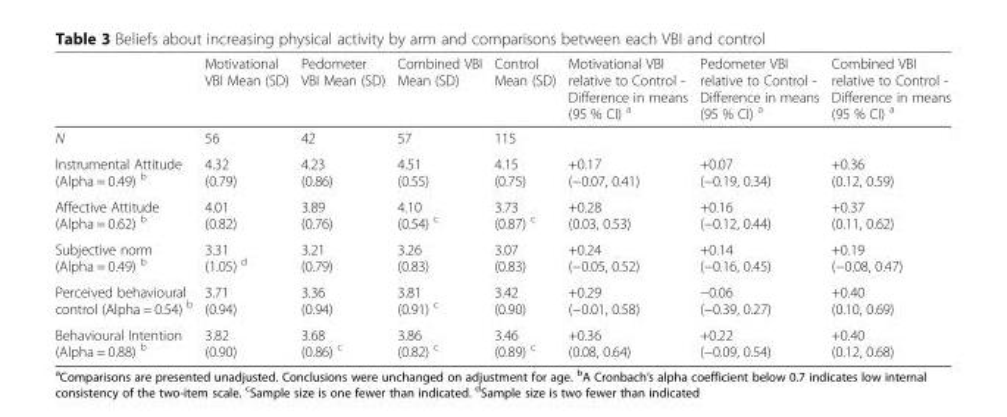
<table><thead><tr><td></td><td>Motivational VBI Mean (SD)</td><td>Pedometer VBI Mean (SD)</td><td>Combined VBI Mean (SD)</td><td>Control Mean (SD)</td><td>Motivational VBI relative to Control - Difference in means (95 % CI) <sup>a</sup></td><td>Pedometer VBI relative to Control - Difference in means (95 % CI) <sup>a</sup></td><td>Combined VBI relative to Control - Difference in means (95 % CI) <sup>a</sup></td></tr></thead><tbody><tr><td>N</td><td>56</td><td>42</td><td>57</td><td>115</td><td></td><td></td><td></td></tr><tr><td>Instrumental Attitude (Alpha = 0.49) <sup>b</sup></td><td>4.32 (0.79)</td><td>4.23 (0.86)</td><td>4.51 (0.55)</td><td>4.15 (0.75)</td><td>+0.17 (−0.07, 0.41)</td><td>+0.07 (−0.19, 0.34)</td><td>+0.36 (0.12, 0.59)</td></tr><tr><td>Affective Attitude (Alpha = 0.62) <sup>b</sup></td><td>4.01 (0.82)</td><td>3.89 (0.76)</td><td>4.10 (0.54) <sup>c</sup></td><td>3.73 (0.87) <sup>c</sup></td><td>+0.28 (0.03, 0.53)</td><td>+0.16 (−0.12, 0.44)</td><td>+0.37 (0.11, 0.62)</td></tr><tr><td>Subjective norm (Alpha = 0.49) <sup>b</sup></td><td>3.31 (1.05) <sup>d</sup></td><td>3.21 (0.79)</td><td>3.26 (0.83)</td><td>3.07 (0.83)</td><td>+0.24 (−0.05, 0.52)</td><td>+0.14 (−0.16, 0.45)</td><td>+0.19 (−0.08, 0.47)</td></tr><tr><td>Perceived behavioural control (Alpha = 0.54) <sup>b</sup></td><td>3.71 (0.94)</td><td>3.36 (0.94)</td><td>3.81 (0.91) <sup>c</sup></td><td>3.42 (0.90)</td><td>+0.29 (−0.01, 0.58)</td><td>−0.06 (−0.39, 0.27)</td><td>+0.40 (0.10, 0.69)</td></tr><tr><td>Behavioural Intention (Alpha = 0.88) <sup>b</sup></td><td>3.82 (0.90)</td><td>3.68 (0.86) <sup>c</sup></td><td>3.86 (0.82) <sup>c</sup></td><td>3.46 (0.89) <sup>c</sup></td><td>+0.36 (0.08, 0.64)</td><td>+0.22 (−0.09, 0.54)</td><td>+0.40 (0.12, 0.68)</td></tr></tbody></table>